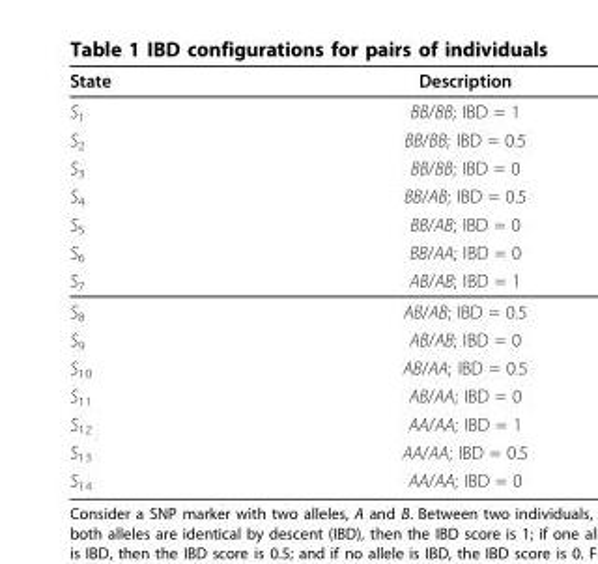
<table><thead><tr><td>State</td><td>Description</td></tr></thead><tbody><tr><td>S<sub>1</sub></td><td>BB/BB; IBD = 1</td></tr><tr><td>S<sub>2</sub></td><td>BB/BB; IBD = 0.5</td></tr><tr><td>S<sub>3</sub></td><td>BB/BB; IBD = 0</td></tr><tr><td>S<sub>4</sub></td><td>BB/AB; IBD = 0.5</td></tr><tr><td>S<sub>5</sub></td><td>BB/AB; IBD = 0</td></tr><tr><td>S<sub>6</sub></td><td>BB/AA; IBD = 0</td></tr><tr><td>S<sub>7</sub></td><td>AB/AB; IBD = 1</td></tr><tr><td>S<sub>8</sub></td><td>AB/AB; IBD = 0.5</td></tr><tr><td>S<sub>9</sub></td><td>AB/AB; IBD = 0</td></tr><tr><td>S<sub>10</sub></td><td>AB/AA; IBD = 0.5</td></tr><tr><td>S<sub>11</sub></td><td>AB/AA; IBD = 0</td></tr><tr><td>S<sub>12</sub></td><td>AA/AA; IBD = 1</td></tr><tr><td>S<sub>13</sub></td><td>AA/AA; IBD = 0.5</td></tr><tr><td>S<sub>14</sub></td><td>AA/AA; IBD = 0</td></tr></tbody></table>